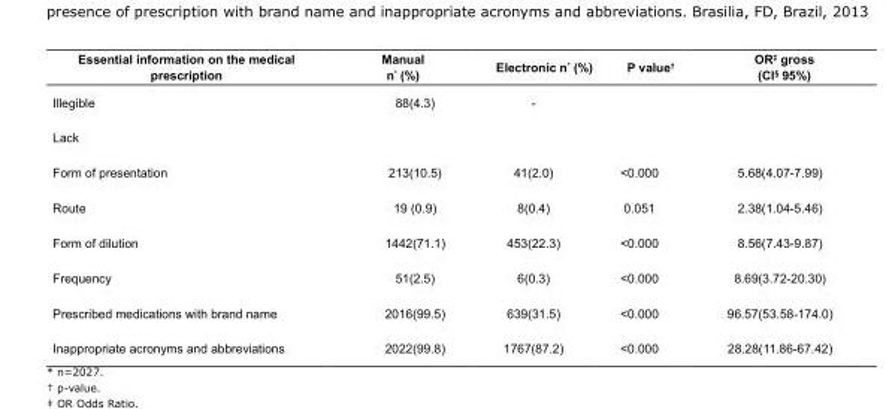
<table><tbody><tr><td>Essential information on the medical prescription</td><td>Manual n* (%)</td><td>Electronic n* (%)</td><td>P value<sup>†</sup></td><td>OR<sup>‡</sup> gross (CI<sup>§</sup> 95%)</td></tr><tr><td>Illegible</td><td>88(4.3)</td><td>-</td><td></td><td></td></tr><tr><td colspan="5">Lack</td></tr><tr><td>Form of presentation</td><td>213(10.5)</td><td>41(2.0)</td><td>&lt;0.000</td><td>5.68(4.07-7.99)</td></tr><tr><td>Route</td><td>19 (0.9)</td><td>8(0.4)</td><td>0.051</td><td>2.38(1.04-5.46)</td></tr><tr><td>Form of dilution</td><td>1442(71.1)</td><td>453(22.3)</td><td>&lt;0.000</td><td>8.56(7.43-9.87)</td></tr><tr><td>Frequency</td><td>51(2.5)</td><td>6(0.3)</td><td>&lt;0.000</td><td>8.69(3.72-20.30)</td></tr><tr><td>Prescribed medications with brand name</td><td>2016(99.5)</td><td>639(31.5)</td><td>&lt;0.000</td><td>96.57(53.58-174.0)</td></tr><tr><td>Inappropriate acronyms and abbreviations</td><td>2022(99.8)</td><td>1767(87.2)</td><td>&lt;0.000</td><td>28.28(11.86-67.42)</td></tr></tbody></table>